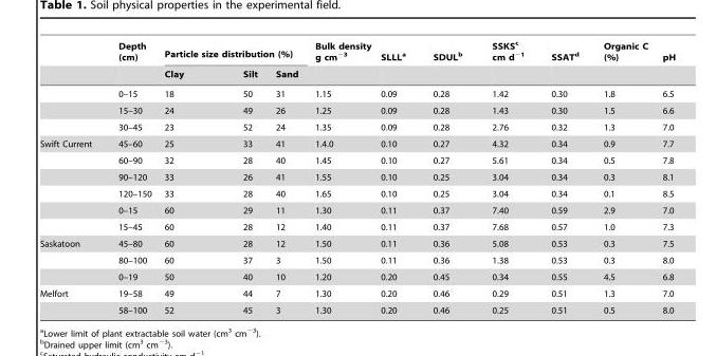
<table><thead><tr><td rowspan="2"></td><td rowspan="2">Depth (cm)</td><td colspan="3">Particle size distribution (%)</td><td rowspan="2">Bulk density g cm<sup>−3</sup></td><td rowspan="2">SLLL<sup>a</sup></td><td rowspan="2">SDUL<sup>b</sup></td><td rowspan="2">SSKS<sup>c</sup> cm d<sup>−1</sup></td><td rowspan="2">SSAT<sup>d</sup></td><td rowspan="2">Organic C (%)</td><td rowspan="2">pH</td></tr><tr><td>Clay</td><td>Silt</td><td>Sand</td></tr></thead><tbody><tr><td></td><td>0–15</td><td>18</td><td>50</td><td>31</td><td>1.15</td><td>0.09</td><td>0.28</td><td>1.42</td><td>0.30</td><td>1.8</td><td>6.5</td></tr><tr><td></td><td>15–30</td><td>24</td><td>49</td><td>26</td><td>1.25</td><td>0.09</td><td>0.28</td><td>1.43</td><td>0.30</td><td>1.5</td><td>6.6</td></tr><tr><td></td><td>30–45</td><td>23</td><td>52</td><td>24</td><td>1.35</td><td>0.09</td><td>0.28</td><td>2.76</td><td>0.32</td><td>1.3</td><td>7.0</td></tr><tr><td rowspan="6">Swift Current</td><td>45–60</td><td>25</td><td>33</td><td>41</td><td>1.4.0</td><td>0.10</td><td>0.27</td><td>4.32</td><td>0.34</td><td>0.9</td><td>7.7</td></tr><tr><td>60–90</td><td>32</td><td>28</td><td>40</td><td>1.45</td><td>0.10</td><td>0.27</td><td>5.61</td><td>0.34</td><td>0.5</td><td>7.8</td></tr><tr><td>90–120</td><td>33</td><td>26</td><td>41</td><td>1.55</td><td>0.10</td><td>0.25</td><td>3.04</td><td>0.34</td><td>0.3</td><td>8.1</td></tr><tr><td>120–150</td><td>33</td><td>28</td><td>40</td><td>1.65</td><td>0.10</td><td>0.25</td><td>3.04</td><td>0.34</td><td>0.1</td><td>8.5</td></tr><tr><td>0–15</td><td>60</td><td>29</td><td>11</td><td>1.30</td><td>0.11</td><td>0.37</td><td>7.40</td><td>0.59</td><td>2.9</td><td>7.0</td></tr><tr><td>15–45</td><td>60</td><td>28</td><td>12</td><td>1.40</td><td>0.11</td><td>0.37</td><td>7.68</td><td>0.57</td><td>1.0</td><td>7.3</td></tr><tr><td rowspan="3">Saskatoon</td><td>45–80</td><td>60</td><td>28</td><td>12</td><td>1.50</td><td>0.11</td><td>0.36</td><td>5.08</td><td>0.53</td><td>0.3</td><td>7.5</td></tr><tr><td>80–100</td><td>60</td><td>37</td><td>3</td><td>1.50</td><td>0.11</td><td>0.36</td><td>1.38</td><td>0.53</td><td>0.3</td><td>8.0</td></tr><tr><td>0–19</td><td>50</td><td>40</td><td>10</td><td>1.20</td><td>0.20</td><td>0.45</td><td>0.34</td><td>0.55</td><td>4.5</td><td>6.8</td></tr><tr><td rowspan="2">Melfort</td><td>19–58</td><td>49</td><td>44</td><td>7</td><td>1.30</td><td>0.20</td><td>0.46</td><td>0.29</td><td>0.51</td><td>1.3</td><td>7.0</td></tr><tr><td>58–100</td><td>52</td><td>45</td><td>3</td><td>1.30</td><td>0.20</td><td>0.46</td><td>0.25</td><td>0.51</td><td>0.5</td><td>8.0</td></tr></tbody></table>